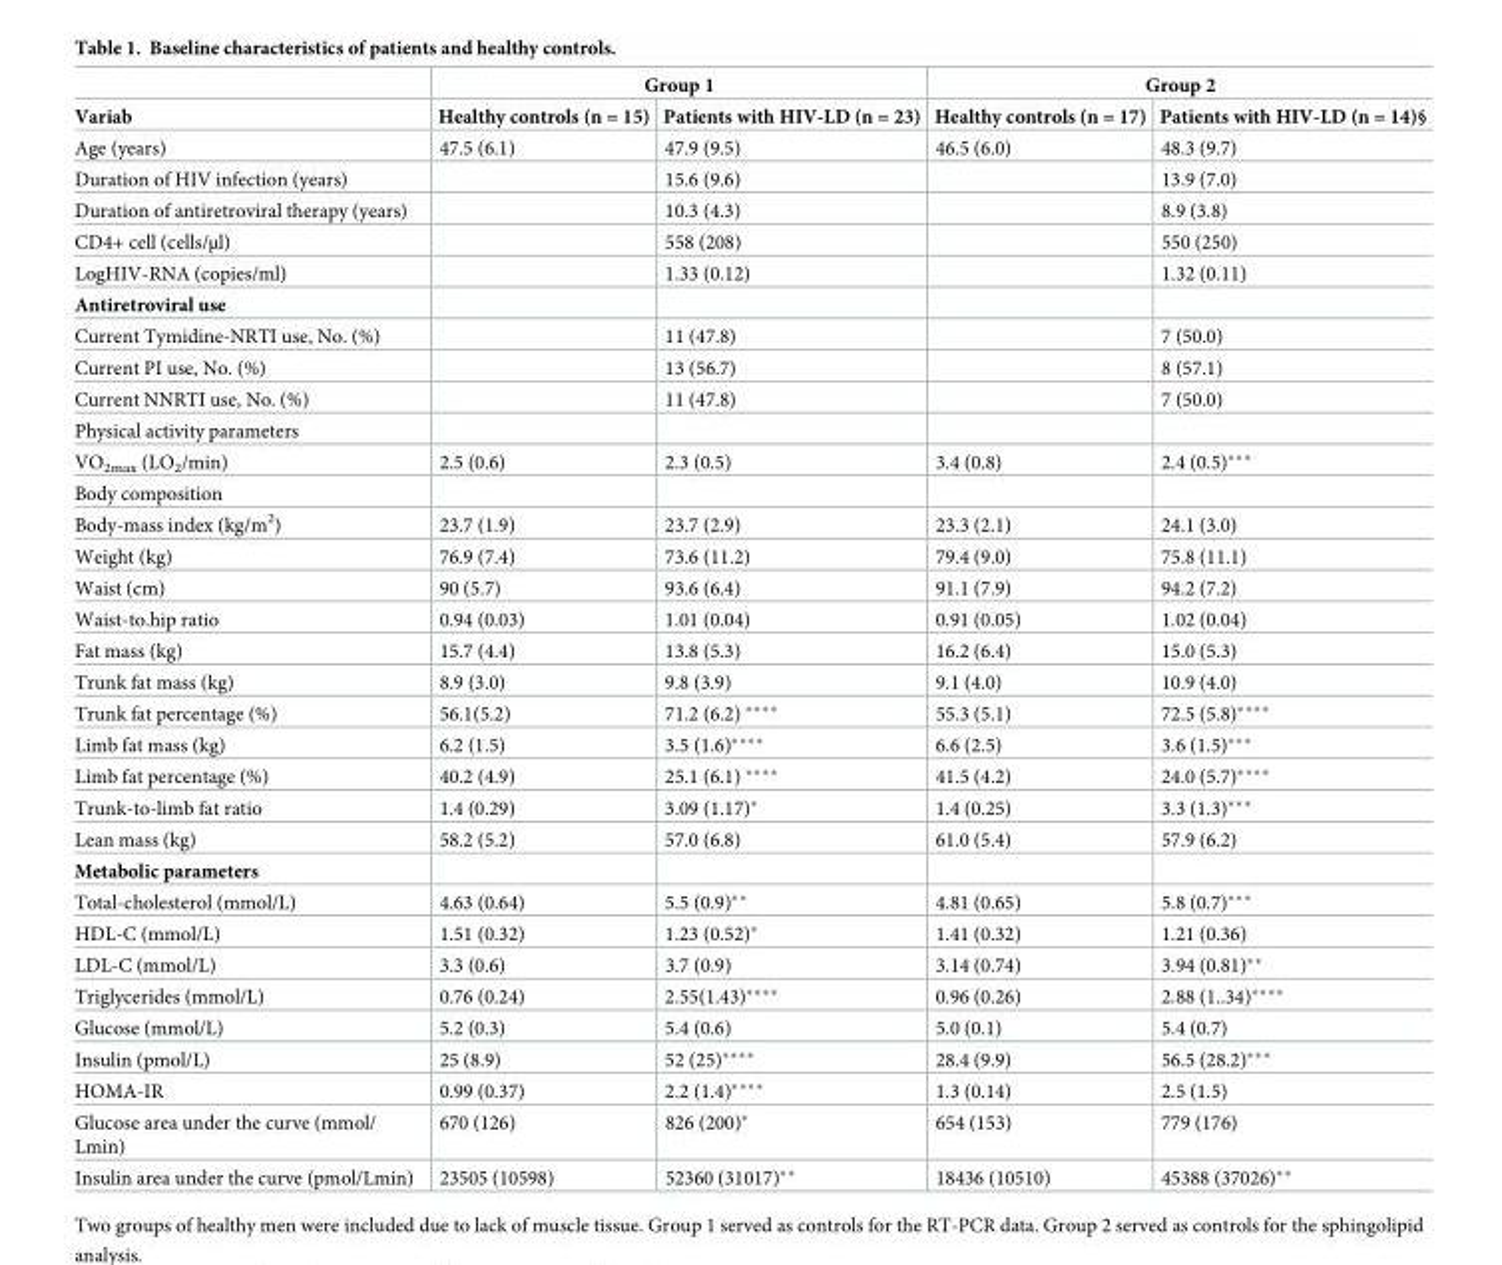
<table><thead><tr><td rowspan="2">Variab</td><td colspan="2">Group 1</td><td colspan="2">Group 2</td></tr><tr><td>Healthy controls (n = 15)</td><td>Patients with HIV-LD (n = 23)</td><td>Healthy controls (n = 17)</td><td>Patients with HIV-LD (n = 14)§</td></tr></thead><tbody><tr><td>Age (years)</td><td>47.5 (6.1)</td><td>47.9 (9.5)</td><td>46.5 (6.0)</td><td>48.3 (9.7)</td></tr><tr><td>Duration of HIV infection (years)</td><td></td><td>15.6 (9.6)</td><td></td><td>13.9 (7.0)</td></tr><tr><td>Duration of antiretroviral therapy (years)</td><td></td><td>10.3 (4.3)</td><td></td><td>8.9 (3.8)</td></tr><tr><td>CD4+ cell (cells/μl)</td><td></td><td>558 (208)</td><td></td><td>550 (250)</td></tr><tr><td>LogHIV-RNA (copies/ml)</td><td></td><td>1.33 (0.12)</td><td></td><td>1.32 (0.11)</td></tr><tr><td colspan="5">Antiretroviral use</td></tr><tr><td>Current Tymidine-NRTI use, No. (%)</td><td></td><td>11 (47.8)</td><td></td><td>7 (50.0)</td></tr><tr><td>Current PI use, No. (%)</td><td></td><td>13 (56.7)</td><td></td><td>8 (57.1)</td></tr><tr><td>Current NNRTI use, No. (%)</td><td></td><td>11 (47.8)</td><td></td><td>7 (50.0)</td></tr><tr><td colspan="5">Physical activity parameters</td></tr><tr><td>VO<sub>2max</sub> (LO<sub>2</sub>/min)</td><td>2.5 (0.6)</td><td>2.3 (0.5)</td><td>3.4 (0.8)</td><td>2.4 (0.5)***</td></tr><tr><td colspan="5">Body composition</td></tr><tr><td>Body-mass index (kg/m<sup>2</sup>)</td><td>23.7 (1.9)</td><td>23.7 (2.9)</td><td>23.3 (2.1)</td><td>24.1 (3.0)</td></tr><tr><td>Weight (kg)</td><td>76.9 (7.4)</td><td>73.6 (11.2)</td><td>79.4 (9.0)</td><td>75.8 (11.1)</td></tr><tr><td>Waist (cm)</td><td>90 (5.7)</td><td>93.6 (6.4)</td><td>91.1 (7.9)</td><td>94.2 (7.2)</td></tr><tr><td>Waist-to.hip ratio</td><td>0.94 (0.03)</td><td>1.01 (0.04)</td><td>0.91 (0.05)</td><td>1.02 (0.04)</td></tr><tr><td>Fat mass (kg)</td><td>15.7 (4.4)</td><td>13.8 (5.3)</td><td>16.2 (6.4)</td><td>15.0 (5.3)</td></tr><tr><td>Trunk fat mass (kg)</td><td>8.9 (3.0)</td><td>9.8 (3.9)</td><td>9.1 (4.0)</td><td>10.9 (4.0)</td></tr><tr><td>Trunk fat percentage (%)</td><td>56.1(5.2)</td><td>71.2 (6.2) ****</td><td>55.3 (5.1)</td><td>72.5 (5.8)****</td></tr><tr><td>Limb fat mass (kg)</td><td>6.2 (1.5)</td><td>3.5 (1.6)****</td><td>6.6 (2.5)</td><td>3.6 (1.5)***</td></tr><tr><td>Limb fat percentage (%)</td><td>40.2 (4.9)</td><td>25.1 (6.1) ****</td><td>41.5 (4.2)</td><td>24.0 (5.7)****</td></tr><tr><td>Trunk-to-limb fat ratio</td><td>1.4 (0.29)</td><td>3.09 (1.17)*</td><td>1.4 (0.25)</td><td>3.3 (1.3)***</td></tr><tr><td>Lean mass (kg)</td><td>58.2 (5.2)</td><td>57.0 (6.8)</td><td>61.0 (5.4)</td><td>57.9 (6.2)</td></tr><tr><td colspan="5">Metabolic parameters</td></tr><tr><td>Total-cholesterol (mmol/L)</td><td>4.63 (0.64)</td><td>5.5 (0.9)**</td><td>4.81 (0.65)</td><td>5.8 (0.7)***</td></tr><tr><td>HDL-C (mmol/L)</td><td>1.51 (0.32)</td><td>1.23 (0.52)*</td><td>1.41 (0.32)</td><td>1.21 (0.36)</td></tr><tr><td>LDL-C (mmol/L)</td><td>3.3 (0.6)</td><td>3.7 (0.9)</td><td>3.14 (0.74)</td><td>3.94 (0.81)**</td></tr><tr><td>Triglycerides (mmol/L)</td><td>0.76 (0.24)</td><td>2.55(1.43)****</td><td>0.96 (0.26)</td><td>2.88 (1..34)****</td></tr><tr><td>Glucose (mmol/L)</td><td>5.2 (0.3)</td><td>5.4 (0.6)</td><td>5.0 (0.1)</td><td>5.4 (0.7)</td></tr><tr><td>Insulin (pmol/L)</td><td>25 (8.9)</td><td>52 (25)****</td><td>28.4 (9.9)</td><td>56.5 (28.2)***</td></tr><tr><td>HOMA-IR</td><td>0.99 (0.37)</td><td>2.2 (1.4)****</td><td>1.3 (0.14)</td><td>2.5 (1.5)</td></tr><tr><td>Glucose area under the curve (mmol/ Lmin)</td><td>670 (126)</td><td>826 (200)*</td><td>654 (153)</td><td>779 (176)</td></tr><tr><td>Insulin area under the curve (pmol/Lmin)</td><td>23505 (10598)</td><td>52360 (31017)**</td><td>18436 (10510)</td><td>45388 (37026)**</td></tr></tbody></table>